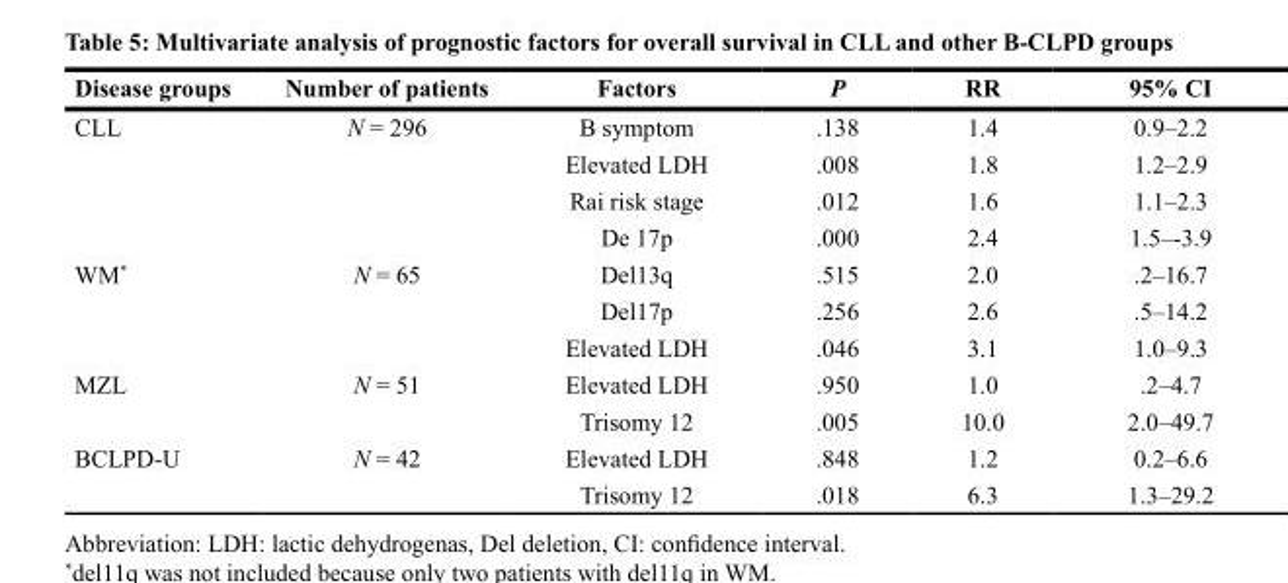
<table><thead><tr><td>Disease groups</td><td>Number of patients</td><td>Factors</td><td>P</td><td>RR</td><td>95% CI</td></tr></thead><tbody><tr><td rowspan="4">CLL</td><td rowspan="4">N = 296</td><td>B symptom</td><td>.138</td><td>1.4</td><td>0.9–2.2</td></tr><tr><td>Elevated LDH</td><td>.008</td><td>1.8</td><td>1.2–2.9</td></tr><tr><td>Rai risk stage</td><td>.012</td><td>1.6</td><td>1.1–2.3</td></tr><tr><td>De 17p</td><td>.000</td><td>2.4</td><td>1.5–-3.9</td></tr><tr><td rowspan="3">WM*</td><td rowspan="3">N = 65</td><td>Del13q</td><td>.515</td><td>2.0</td><td>.2–16.7</td></tr><tr><td>Del17p</td><td>.256</td><td>2.6</td><td>.5–14.2</td></tr><tr><td>Elevated LDH</td><td>.046</td><td>3.1</td><td>1.0–9.3</td></tr><tr><td rowspan="2">MZL</td><td rowspan="2">N = 51</td><td>Elevated LDH</td><td>.950</td><td>1.0</td><td>.2–4.7</td></tr><tr><td>Trisomy 12</td><td>.005</td><td>10.0</td><td>2.0–49.7</td></tr><tr><td rowspan="2">BCLPD-U</td><td rowspan="2">N = 42</td><td>Elevated LDH</td><td>.848</td><td>1.2</td><td>0.2–6.6</td></tr><tr><td>Trisomy 12</td><td>.018</td><td>6.3</td><td>1.3–29.2</td></tr></tbody></table>